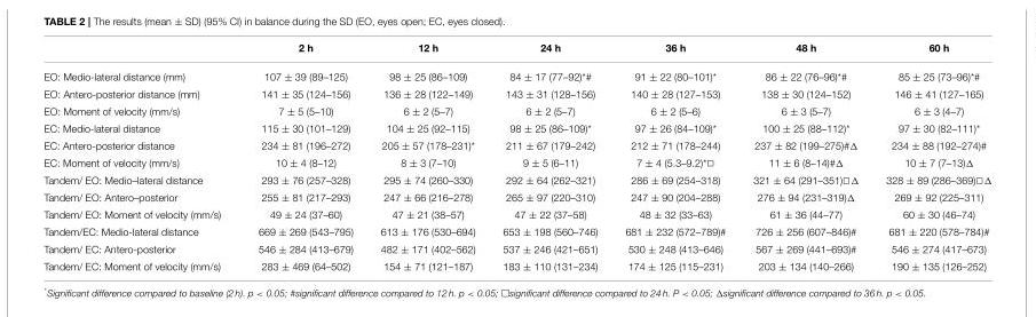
<table><thead><tr><td></td><td>2 h</td><td>12 h</td><td>24 h</td><td>36 h</td><td>48 h</td><td>60 h</td></tr></thead><tbody><tr><td>EO: Medio-lateral distance (mm)</td><td>107 ± 39 (89–125)</td><td>98 ± 25 (86–109)</td><td>84 ± 17 (77–92)*#</td><td>91 ± 22 (80–101)*</td><td>86 ± 22 (76–96)*#</td><td>85 ± 25 (73–96)*#</td></tr><tr><td>EO: Antero-posterior distance (mm)</td><td>141 ± 35 (124–156)</td><td>136 ± 28 (122–149)</td><td>143 ± 31 (128–156)</td><td>140 ± 28 (127–153)</td><td>138 ± 30 (124–152)</td><td>146 ± 41 (127–165)</td></tr><tr><td>EO: Moment of velocity (mm/s)</td><td>7 ± 5 (5–10)</td><td>6 ± 2 (5–7)</td><td>6 ± 2 (5–7)</td><td>6 ± 2 (5–6)</td><td>6 ± 3 (5–7)</td><td>6 ± 3 (4–7)</td></tr><tr><td>EC: Medio-lateral distance</td><td>115 ± 30 (101–129)</td><td>104 ± 25 (92–115)</td><td>98 ± 25 (86–109)*</td><td>97 ± 26 (84–109)*</td><td>100 ± 25 (88–112)*</td><td>97 ± 30 (82–111)*</td></tr><tr><td>EC: Antero-posterior distance</td><td>234 ± 81 (196–272)</td><td>205 ± 57 (178–231)*</td><td>211 ± 67 (179–242)</td><td>212 ± 71 (178–244)</td><td>237 ± 82 (199–275)#Δ</td><td>234 ± 88 (192–274)#</td></tr><tr><td>EC: Moment of velocity (mm/s)</td><td>10 ± 4 (8–12)</td><td>8 ± 3 (7–10)</td><td>9 ± 5 (6–11)</td><td>7 ± 4 (5.3–9.2)*□</td><td>11 ± 6 (8–14)#Δ</td><td>10 ± 7 (7–13)Δ</td></tr><tr><td>Tandem/ EO: Medio–lateral distance</td><td>293 ± 76 (257–328)</td><td>295 ± 74 (260–330)</td><td>292 ± 64 (262–321)</td><td>286 ± 69 (254–318)</td><td>321 ± 64 (291–351)□Δ</td><td>328 ± 89 (286–369)□Δ</td></tr><tr><td>Tandem/ EO: Antero–posterior</td><td>255 ± 81 (217–293)</td><td>247 ± 66 (216–278)</td><td>265 ± 97 (220–310)</td><td>247 ± 90 (204–288)</td><td>276 ± 94 (231–319)Δ</td><td>269 ± 92 (225–311)</td></tr><tr><td>Tandem/ EO: Moment of velocity (mm/s)</td><td>49 ± 24 (37–60)</td><td>47 ± 21 (38–57)</td><td>47 ± 22 (37–58)</td><td>48 ± 32 (33–63)</td><td>61 ± 36 (44–77)</td><td>60 ± 30 (46–74)</td></tr><tr><td>Tandem/EC: Medio-lateral distance</td><td>669 ± 269 (543–795)</td><td>613 ± 176 (530–694)</td><td>653 ± 198 (560–746)</td><td>681 ± 232 (572–789)#</td><td>726 ± 256 (607–846)#</td><td>681 ± 220 (578–784)#</td></tr><tr><td>Tandem/ EC: Antero-posterior</td><td>546 ± 284 (413–679)</td><td>482 ± 171 (402–562)</td><td>537 ± 246 (421–651)</td><td>530 ± 248 (413–646)</td><td>567 ± 269 (441–693)#</td><td>546 ± 274 (417–673)</td></tr><tr><td>Tandem/ EC: Moment of velocity (mm/s)</td><td>283 ± 469 (64–502)</td><td>154 ± 71 (121–187)</td><td>183 ± 110 (131–234)</td><td>174 ± 125 (115–231)</td><td>203 ± 134 (140–266)</td><td>190 ± 135 (126–252)</td></tr></tbody></table>